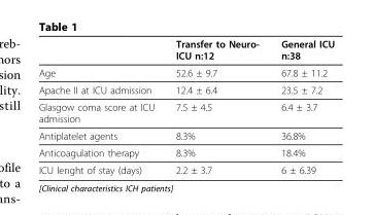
<table><thead><tr><td></td><td>Transfer to Neuro- ICU n:12</td><td>General ICU n:38</td></tr></thead><tbody><tr><td>Age</td><td>52.6 ± 9.7</td><td>67.8 ± 11.2</td></tr><tr><td>Apache II at ICU admission</td><td>12.4 ± 6.4</td><td>23.5 ± 7.2</td></tr><tr><td>Glasgow coma score at ICU admission</td><td>7.5 ± 4.5</td><td>6.4 ± 3.7</td></tr><tr><td>Antiplatelet agents</td><td>8.3%</td><td>36.8%</td></tr><tr><td>Anticoagulation therapy</td><td>8.3%</td><td>18.4%</td></tr><tr><td>ICU lenght of stay (days)</td><td>2.2 ± 3.7</td><td>6 ± 6.39</td></tr></tbody></table>